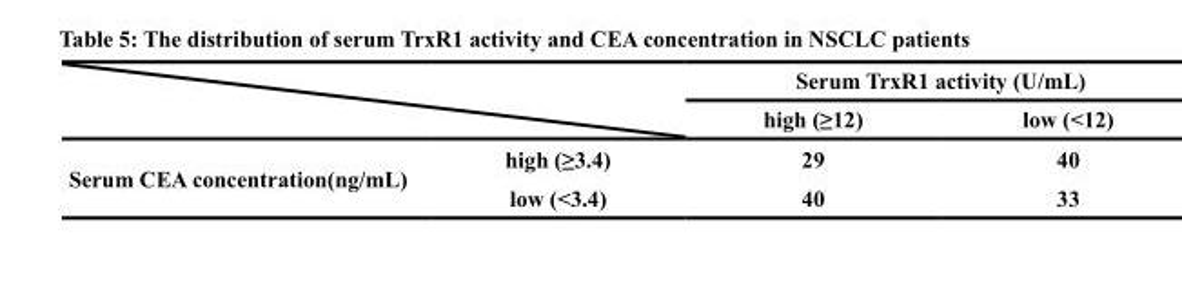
<table><thead><tr><td rowspan="2"></td><td rowspan="2"></td><td colspan="2">Serum TrxR1 activity (U/mL)</td></tr><tr><td>high (≥12)</td><td>low (&lt;12)</td></tr></thead><tbody><tr><td rowspan="2">Serum CEA concentration(ng/mL)</td><td>high (≥3.4)</td><td>29</td><td>40</td></tr><tr><td>low (&lt;3.4)</td><td>40</td><td>33</td></tr></tbody></table>